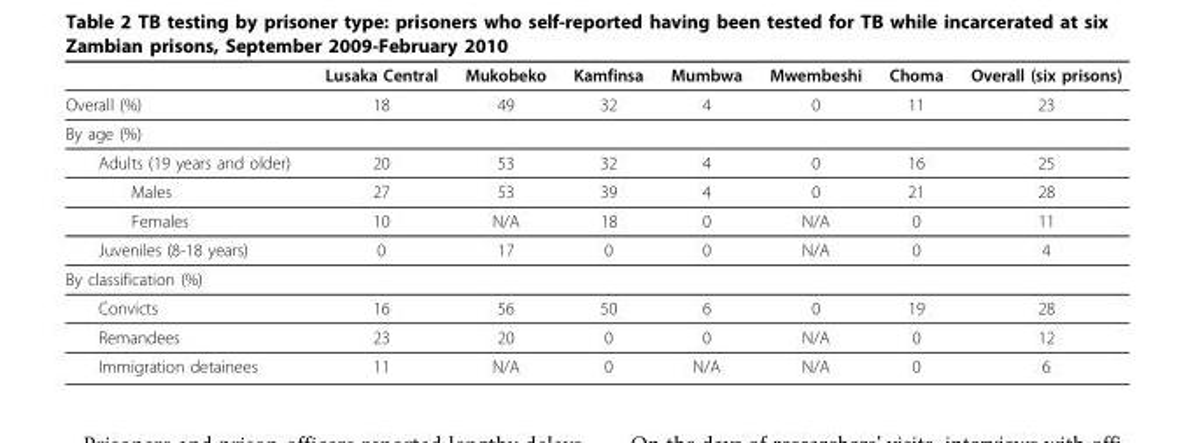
<table><thead><tr><td></td><td>Lusaka Central</td><td>Mukobeko</td><td>Kamfinsa</td><td>Mumbwa</td><td>Mwembeshi</td><td>Choma</td><td>Overall (six prisons)</td></tr></thead><tbody><tr><td>Overall (%)</td><td>18</td><td>49</td><td>32</td><td>4</td><td>0</td><td>11</td><td>23</td></tr><tr><td colspan="8">By age (%)</td></tr><tr><td>Adults (19 years and older)</td><td>20</td><td>53</td><td>32</td><td>4</td><td>0</td><td>16</td><td>25</td></tr><tr><td>Males</td><td>27</td><td>53</td><td>39</td><td>4</td><td>0</td><td>21</td><td>28</td></tr><tr><td>Females</td><td>10</td><td>N/A</td><td>18</td><td>0</td><td>N/A</td><td>0</td><td>11</td></tr><tr><td>Juveniles (8-18 years)</td><td>0</td><td>17</td><td>0</td><td>0</td><td>N/A</td><td>0</td><td>4</td></tr><tr><td colspan="8">By classification (%)</td></tr><tr><td>Convicts</td><td>16</td><td>56</td><td>50</td><td>6</td><td>0</td><td>19</td><td>28</td></tr><tr><td>Remandees</td><td>23</td><td>20</td><td>0</td><td>0</td><td>N/A</td><td>0</td><td>12</td></tr><tr><td>Immigration detainees</td><td>11</td><td>N/A</td><td>0</td><td>N/A</td><td>N/A</td><td>0</td><td>6</td></tr></tbody></table>